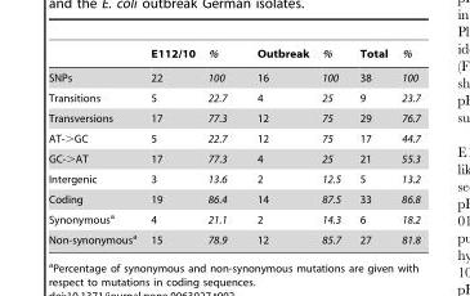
<table><thead><tr><td></td><td>E112/10</td><td>%</td><td>Outbreak</td><td>%</td><td>Total</td><td>%</td></tr></thead><tbody><tr><td>SNPs</td><td>22</td><td>100</td><td>16</td><td>100</td><td>38</td><td>100</td></tr><tr><td>Transitions</td><td>5</td><td>22.7</td><td>4</td><td>25</td><td>9</td><td>23.7</td></tr><tr><td>Transversions</td><td>17</td><td>77.3</td><td>12</td><td>75</td><td>29</td><td>76.7</td></tr><tr><td>AT-&gt;GC</td><td>5</td><td>22.7</td><td>12</td><td>75</td><td>17</td><td>44.7</td></tr><tr><td>GC-&gt;AT</td><td>17</td><td>77.3</td><td>4</td><td>25</td><td>21</td><td>55.3</td></tr><tr><td>Intergenic</td><td>3</td><td>13.6</td><td>2</td><td>12.5</td><td>5</td><td>13.2</td></tr><tr><td>Coding</td><td>19</td><td>86.4</td><td>14</td><td>87.5</td><td>33</td><td>86.8</td></tr><tr><td>Synonymous<sup>a</sup></td><td>4</td><td>21.1</td><td>2</td><td>14.3</td><td>6</td><td>18.2</td></tr><tr><td>Non-synonymous<sup>a</sup></td><td>15</td><td>78.9</td><td>12</td><td>85.7</td><td>27</td><td>81.8</td></tr></tbody></table>